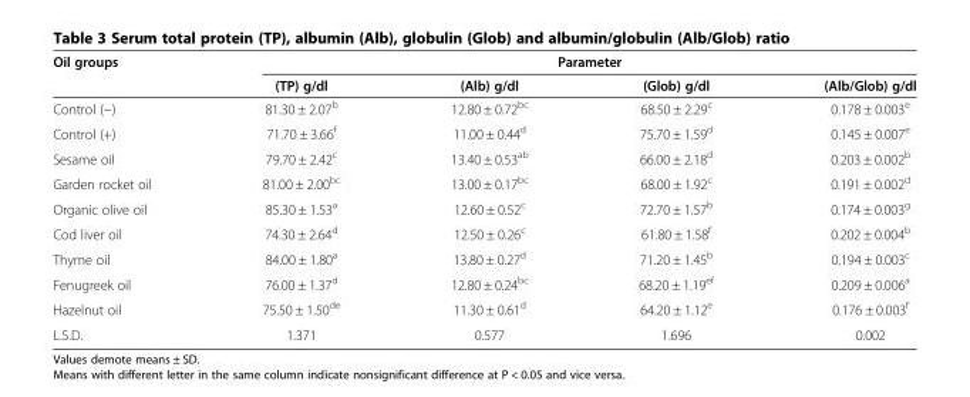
<table><thead><tr><td rowspan="2">Oil groups</td><td colspan="4">Parameter</td></tr><tr><td>(TP) g/dl</td><td>(Alb) g/dl</td><td>(Glob) g/dl</td><td>(Alb/Glob) g/dl</td></tr></thead><tbody><tr><td>Control (−)</td><td>81.30 ± 2.07<sup>b</sup></td><td>12.80 ± 0.72<sup>bc</sup></td><td>68.50 ± 2.29<sup>c</sup></td><td>0.178 ± 0.003<sup>e</sup></td></tr><tr><td>Control (+)</td><td>71.70 ± 3.66<sup>f</sup></td><td>11.00 ± 0.44<sup>d</sup></td><td>75.70 ± 1.59<sup>d</sup></td><td>0.145 ± 0.007<sup>e</sup></td></tr><tr><td>Sesame oil</td><td>79.70 ± 2.42<sup>c</sup></td><td>13.40 ± 0.53<sup>ab</sup></td><td>66.00 ± 2.18<sup>d</sup></td><td>0.203 ± 0.002<sup>b</sup></td></tr><tr><td>Garden rocket oil</td><td>81.00 ± 2.00<sup>bc</sup></td><td>13.00 ± 0.17<sup>bc</sup></td><td>68.00 ± 1.92<sup>c</sup></td><td>0.191 ± 0.002<sup>d</sup></td></tr><tr><td>Organic olive oil</td><td>85.30 ± 1.53<sup>a</sup></td><td>12.60 ± 0.52<sup>c</sup></td><td>72.70 ± 1.57<sup>b</sup></td><td>0.174 ± 0.003<sup>g</sup></td></tr><tr><td>Cod liver oil</td><td>74.30 ± 2.64<sup>d</sup></td><td>12.50 ± 0.26<sup>c</sup></td><td>61.80 ± 1.58<sup>f</sup></td><td>0.202 ± 0.004<sup>b</sup></td></tr><tr><td>Thyme oil</td><td>84.00 ± 1.80<sup>a</sup></td><td>13.80 ± 0.27<sup>d</sup></td><td>71.20 ± 1.45<sup>b</sup></td><td>0.194 ± 0.003<sup>c</sup></td></tr><tr><td>Fenugreek oil</td><td>76.00 ± 1.37<sup>d</sup></td><td>12.80 ± 0.24<sup>bc</sup></td><td>68.20 ± 1.19<sup>ef</sup></td><td>0.209 ± 0.006<sup>a</sup></td></tr><tr><td>Hazelnut oil</td><td>75.50 ± 1.50<sup>de</sup></td><td>11.30 ± 0.61<sup>d</sup></td><td>64.20 ± 1.12<sup>e</sup></td><td>0.176 ± 0.003<sup>f</sup></td></tr><tr><td>L.S.D.</td><td>1.371</td><td>0.577</td><td>1.696</td><td>0.002</td></tr></tbody></table>